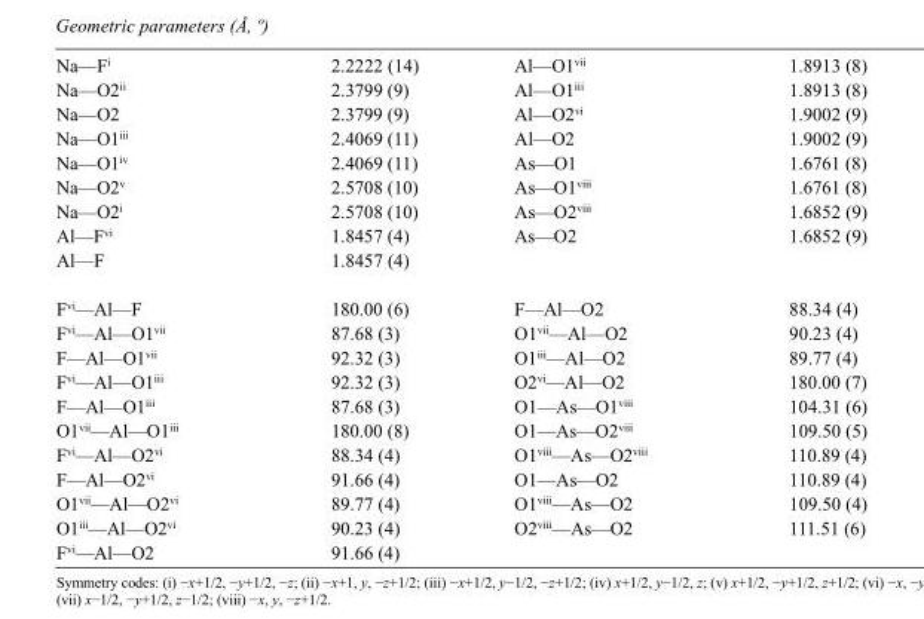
<table><tbody><tr><td>Na—F<sup>i</sup></td><td>2.2222 (14)</td><td>Al—O1<sup>vii</sup></td><td>1.8913 (8)</td></tr><tr><td>Na—O2<sup>ii</sup></td><td>2.3799 (9)</td><td>Al—O1<sup>iii</sup></td><td>1.8913 (8)</td></tr><tr><td>Na—O2</td><td>2.3799 (9)</td><td>Al—O2<sup>vi</sup></td><td>1.9002 (9)</td></tr><tr><td>Na—O1<sup>iii</sup></td><td>2.4069 (11)</td><td>Al—O2</td><td>1.9002 (9)</td></tr><tr><td>Na—O1<sup>iv</sup></td><td>2.4069 (11)</td><td>As—O1</td><td>1.6761 (8)</td></tr><tr><td>Na—O2<sup>v</sup></td><td>2.5708 (10)</td><td>As—O1<sup>viii</sup></td><td>1.6761 (8)</td></tr><tr><td>Na—O2<sup>i</sup></td><td>2.5708 (10)</td><td>As—O2<sup>viii</sup></td><td>1.6852 (9)</td></tr><tr><td>Al—F<sup>vi</sup></td><td>1.8457 (4)</td><td>As—O2</td><td>1.6852 (9)</td></tr><tr><td>Al—F</td><td>1.8457 (4)</td><td></td><td></td></tr><tr><td>F<sup>vi</sup>—Al—F</td><td>180.00 (6)</td><td>F—Al—O2</td><td>88.34 (4)</td></tr><tr><td>F<sup>vi</sup>—Al—O1<sup>vii</sup></td><td>87.68 (3)</td><td>O1<sup>vii</sup>—Al—O2</td><td>90.23 (4)</td></tr><tr><td>F—Al—O1<sup>vii</sup></td><td>92.32 (3)</td><td>O1<sup>iii</sup>—Al—O2</td><td>89.77 (4)</td></tr><tr><td>F<sup>vi</sup>—Al—O1<sup>iii</sup></td><td>92.32 (3)</td><td>O2<sup>vi</sup>—Al—O2</td><td>180.00 (7)</td></tr><tr><td>F—Al—O1<sup>iii</sup></td><td>87.68 (3)</td><td>O1—As—O1<sup>viii</sup></td><td>104.31 (6)</td></tr><tr><td>O1<sup>vii</sup>—Al—O1<sup>iii</sup></td><td>180.00 (8)</td><td>O1—As—O2<sup>viii</sup></td><td>109.50 (5)</td></tr><tr><td>F<sup>vi</sup>—Al—O2<sup>vi</sup></td><td>88.34 (4)</td><td>O1<sup>viii</sup>—As—O2<sup>viii</sup></td><td>110.89 (4)</td></tr><tr><td>F—Al—O2<sup>vi</sup></td><td>91.66 (4)</td><td>O1—As—O2</td><td>110.89 (4)</td></tr><tr><td>O1<sup>vii</sup>—Al—O2<sup>vi</sup></td><td>89.77 (4)</td><td>O1<sup>viii</sup>—As—O2</td><td>109.50 (4)</td></tr><tr><td>O1<sup>iii</sup>—Al—O2<sup>vi</sup></td><td>90.23 (4)</td><td>O2<sup>viii</sup>—As—O2</td><td>111.51 (6)</td></tr><tr><td>F<sup>vi</sup>—Al—O2</td><td>91.66 (4)</td><td></td><td></td></tr></tbody></table>